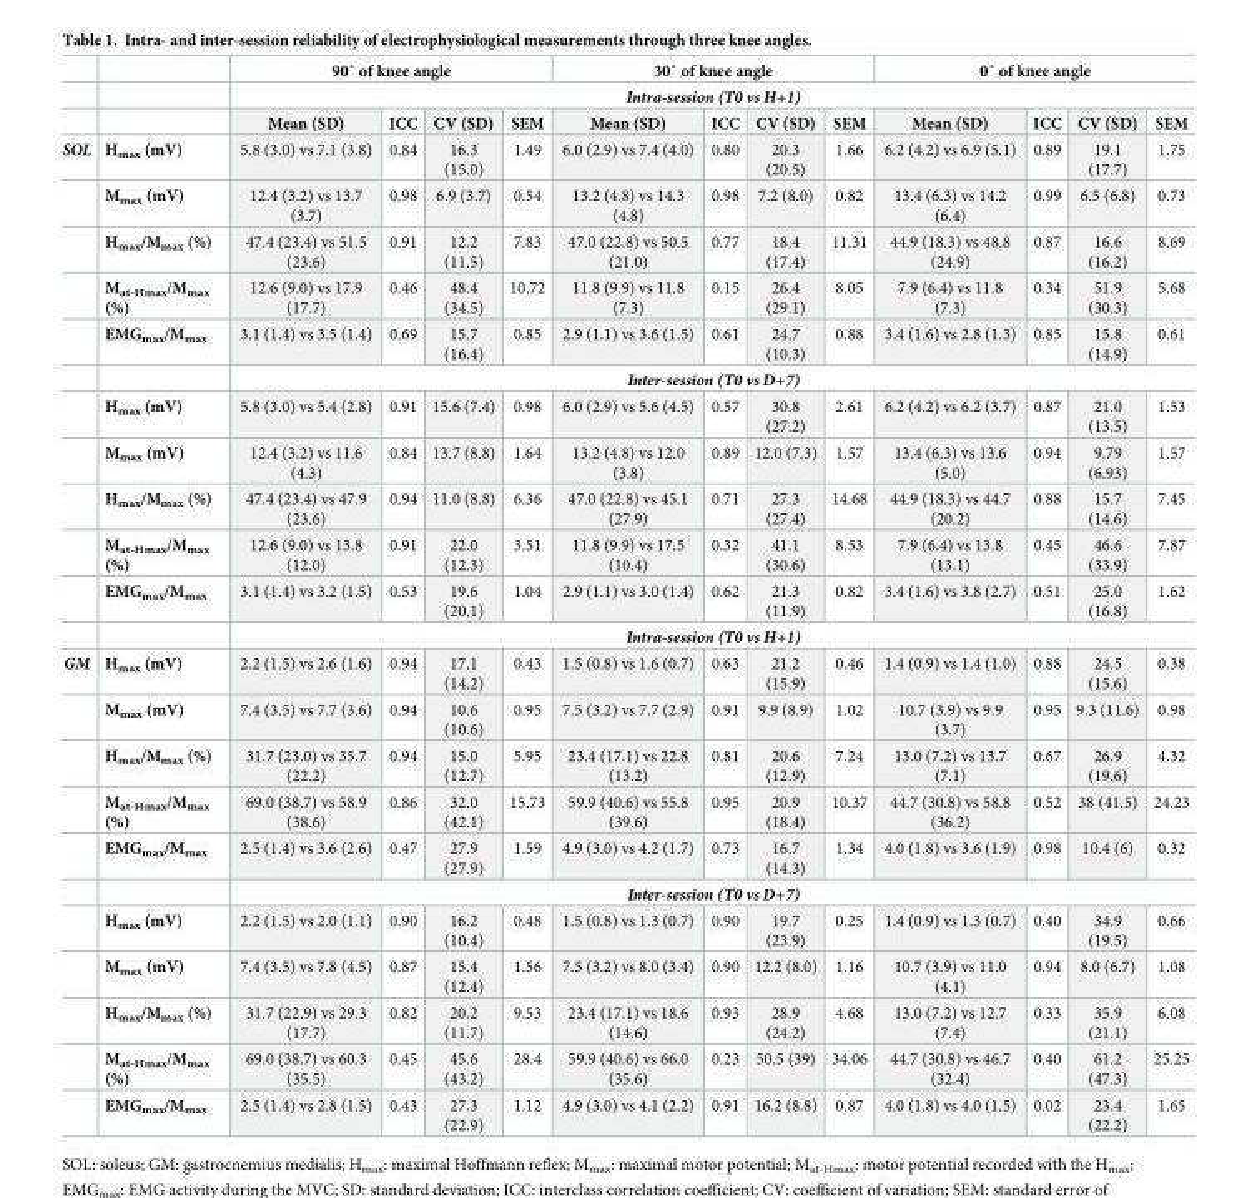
<table><thead><tr><td rowspan="3"></td><td rowspan="3"></td><td colspan="4">90˚ of knee angle</td><td colspan="4">30˚ of knee angle</td><td colspan="4">0˚ of knee angle</td></tr><tr><td colspan="12">Intra-session (T0 vs H+1)</td></tr><tr><td>Mean (SD)</td><td>ICC</td><td>CV (SD)</td><td>SEM</td><td>Mean (SD)</td><td>ICC</td><td>CV (SD)</td><td>SEM</td><td>Mean (SD)</td><td>ICC</td><td>CV (SD)</td><td>SEM</td></tr></thead><tbody><tr><td rowspan="12">SOL</td><td>H<sub>max</sub> (mV)</td><td>5.8 (3.0) vs 7.1 (3.8)</td><td>0.84</td><td>16.3 (15.0)</td><td>1.49</td><td>6.0 (2.9) vs 7.4 (4.0)</td><td>0.80</td><td>20.3 (20.5)</td><td>1.66</td><td>6.2 (4.2) vs 6.9 (5.1)</td><td>0.89</td><td>19.1 (17.7)</td><td>1.75</td></tr><tr><td>M<sub>max</sub> (mV)</td><td>12.4 (3.2) vs 13.7 (3.7)</td><td>0.98</td><td>6.9 (3.7)</td><td>0.54</td><td>13.2 (4.8) vs 14.3 (4.8)</td><td>0.98</td><td>7.2 (8.0)</td><td>0.82</td><td>13.4 (6.3) vs 14.2 (6.4)</td><td>0.99</td><td>6.5 (6.8)</td><td>0.73</td></tr><tr><td>H<sub>max</sub>/M<sub>max</sub> (%)</td><td>47.4 (23.4) vs 51.5 (23.6)</td><td>0.91</td><td>12.2 (11.5)</td><td>7.83</td><td>47.0 (22.8) vs 50.5 (21.0)</td><td>0.77</td><td>18.4 (17.4)</td><td>11.31</td><td>44.9 (18.3) vs 48.8 (24.9)</td><td>0.87</td><td>16.6 (16.2)</td><td>8.69</td></tr><tr><td>M<sub>at-Hmax</sub>/M<sub>max</sub> (%)</td><td>12.6 (9.0) vs 17.9 (17.7)</td><td>0.46</td><td>48.4 (34.5)</td><td>10.72</td><td>11.8 (9.9) vs 11.8 (7.3)</td><td>0.15</td><td>26.4 (29.1)</td><td>8.05</td><td>7.9 (6.4) vs 11.8 (7.3)</td><td>0.34</td><td>51.9 (30.3)</td><td>5.68</td></tr><tr><td>EMG<sub>max</sub>/M<sub>max</sub></td><td>3.1 (1.4) vs 3.5 (1.4)</td><td>0.69</td><td>15.7 (16.4)</td><td>0.85</td><td>2.9 (1.1) vs 3.6 (1.5)</td><td>0.61</td><td>24.7 (10.3)</td><td>0.88</td><td>3.4 (1.6) vs 2.8 (1.3)</td><td>0.85</td><td>15.8 (14.9)</td><td>0.61</td></tr><tr><td></td><td colspan="12">Inter-session (T0 vs D+7)</td></tr><tr><td>H<sub>max</sub> (mV)</td><td>5.8 (3.0) vs 5.4 (2.8)</td><td>0.91</td><td>15.6 (7.4)</td><td>0.98</td><td>6.0 (2.9) vs 5.6 (4.5)</td><td>0.57</td><td>30.8 (27.2)</td><td>2.61</td><td>6.2 (4.2) vs 6.2 (3.7)</td><td>0.87</td><td>21.0 (13.5)</td><td>1.53</td></tr><tr><td>M<sub>max</sub> (mV)</td><td>12.4 (3.2) vs 11.6 (4.3)</td><td>0.84</td><td>13.7 (8.8)</td><td>1.64</td><td>13.2 (4.8) vs 12.0 (3.8)</td><td>0.89</td><td>12.0 (7.3)</td><td>1.57</td><td>13.4 (6.3) vs 13.6 (5.0)</td><td>0.94</td><td>9.79 (6.93)</td><td>1.57</td></tr><tr><td>H<sub>max</sub>/M<sub>max</sub> (%)</td><td>47.4 (23.4) vs 47.9 (23.6)</td><td>0.94</td><td>11.0 (8.8)</td><td>6.36</td><td>47.0 (22.8) vs 45.1 (27.9)</td><td>0.71</td><td>27.3 (27.4)</td><td>14.68</td><td>44.9 (18.3) vs 44.7 (20.2)</td><td>0.88</td><td>15.7 (14.6)</td><td>7.45</td></tr><tr><td>M<sub>at-Hmax</sub>/M<sub>max</sub> (%)</td><td>12.6 (9.0) vs 13.8 (12.0)</td><td>0.91</td><td>22.0 (12.3)</td><td>3.51</td><td>11.8 (9.9) vs 17.5 (10.4)</td><td>0.32</td><td>41.1 (30.6)</td><td>8.53</td><td>7.9 (6.4) vs 13.8 (13.1)</td><td>0.45</td><td>46.6 (33.9)</td><td>7.87</td></tr><tr><td>EMG<sub>max</sub>/M<sub>max</sub></td><td>3.1 (1.4) vs 3.2 (1.5)</td><td>0.53</td><td>19.6 (20.1)</td><td>1.04</td><td>2.9 (1.1) vs 3.0 (1.4)</td><td>0.62</td><td>21.3 (11.9)</td><td>0.82</td><td>3.4 (1.6) vs 3.8 (2.7)</td><td>0.51</td><td>25.0 (16.8)</td><td>1.62</td></tr><tr><td></td><td colspan="12">Intra-session (T0 vs H+1)</td></tr><tr><td rowspan="11">GM</td><td>H<sub>max</sub> (mV)</td><td>2.2 (1.5) vs 2.6 (1.6)</td><td>0.94</td><td>17.1 (14.2)</td><td>0.43</td><td>1.5 (0.8) vs 1.6 (0.7)</td><td>0.63</td><td>21.2 (15.9)</td><td>0.46</td><td>1.4 (0.9) vs 1.4 (1.0)</td><td>0.88</td><td>24.5 (15.6)</td><td>0.38</td></tr><tr><td>M<sub>max</sub> (mV)</td><td>7.4 (3.5) vs 7.7 (3.6)</td><td>0.94</td><td>10.6 (10.6)</td><td>0.95</td><td>7.5 (3.2) vs 7.7 (2.9)</td><td>0.91</td><td>9.9 (8.9)</td><td>1.02</td><td>10.7 (3.9) vs 9.9 (3.7)</td><td>0.95</td><td>9.3 (11.6)</td><td>0.98</td></tr><tr><td>H<sub>max</sub>/M<sub>max</sub> (%)</td><td>31.7 (23.0) vs 35.7 (22.2)</td><td>0.94</td><td>15.0 (12.7)</td><td>5.95</td><td>23.4 (17.1) vs 22.8 (13.2)</td><td>0.81</td><td>20.6 (12.9)</td><td>7.24</td><td>13.0 (7.2) vs 13.7 (7.1)</td><td>0.67</td><td>26.9 (19.6)</td><td>4.32</td></tr><tr><td>M<sub>at-Hmax</sub>/M<sub>max</sub> (%)</td><td>69.0 (38.7) vs 58.9 (38.6)</td><td>0.86</td><td>32.0 (42.1)</td><td>15.73</td><td>59.9 (40.6) vs 55.8 (39.6)</td><td>0.95</td><td>20.9 (18.4)</td><td>10.37</td><td>44.7 (30.8) vs 58.8 (36.2)</td><td>0.52</td><td>38 (41.5)</td><td>24.23</td></tr><tr><td>EMG<sub>max</sub>/M<sub>max</sub></td><td>2.5 (1.4) vs 3.6 (2.6)</td><td>0.47</td><td>27.9 (27.9)</td><td>1.59</td><td>4.9 (3.0) vs 4.2 (1.7)</td><td>0.73</td><td>16.7 (14.3)</td><td>1.34</td><td>4.0 (1.8) vs 3.6 (1.9)</td><td>0.98</td><td>10.4 (6)</td><td>0.32</td></tr><tr><td></td><td colspan="12">Inter-session (T0 vs D+7)</td></tr><tr><td>H<sub>max</sub> (mV)</td><td>2.2 (1.5) vs 2.0 (1.1)</td><td>0.90</td><td>16.2 (10.4)</td><td>0.48</td><td>1.5 (0.8) vs 1.3 (0.7)</td><td>0.90</td><td>19.7 (23.9)</td><td>0.25</td><td>1.4 (0.9) vs 1.3 (0.7)</td><td>0.40</td><td>34.9 (19.5)</td><td>0.66</td></tr><tr><td>M<sub>max</sub> (mV)</td><td>7.4 (3.5) vs 7.8 (4.5)</td><td>0.87</td><td>15.4 (12.4)</td><td>1.56</td><td>7.5 (3.2) vs 8.0 (3.4)</td><td>0.90</td><td>12.2 (8.0)</td><td>1.16</td><td>10.7 (3.9) vs 11.0 (4.1)</td><td>0.94</td><td>8.0 (6.7)</td><td>1.08</td></tr><tr><td>H<sub>max</sub>/M<sub>max</sub> (%)</td><td>31.7 (22.9) vs 29.3 (17.7)</td><td>0.82</td><td>20.2 (11.7)</td><td>9.53</td><td>23.4 (17.1) vs 18.6 (14.6)</td><td>0.93</td><td>28.9 (24.2)</td><td>4.68</td><td>13.0 (7.2) vs 12.7 (7.4)</td><td>0.33</td><td>35.9 (21.1)</td><td>6.08</td></tr><tr><td>M<sub>at-Hmax</sub>/M<sub>max</sub> (%)</td><td>69.0 (38.7) vs 60.3 (35.5)</td><td>0.45</td><td>45.6 (43.2)</td><td>28.4</td><td>59.9 (40.6) vs 66.0 (35.6)</td><td>0.23</td><td>50.5 (39)</td><td>34.06</td><td>44.7 (30.8) vs 46.7 (32.4)</td><td>0.40</td><td>61.2 (47.3)</td><td>25.25</td></tr><tr><td>EMG<sub>max</sub>/M<sub>max</sub></td><td>2.5 (1.4) vs 2.8 (1.5)</td><td>0.43</td><td>27.3 (22.9)</td><td>1.12</td><td>4.9 (3.0) vs 4.1 (2.2)</td><td>0.91</td><td>16.2 (8.8)</td><td>0.87</td><td>4.0 (1.8) vs 4.0 (1.5)</td><td>0.02</td><td>23.4 (22.2)</td><td>1.65</td></tr></tbody></table>